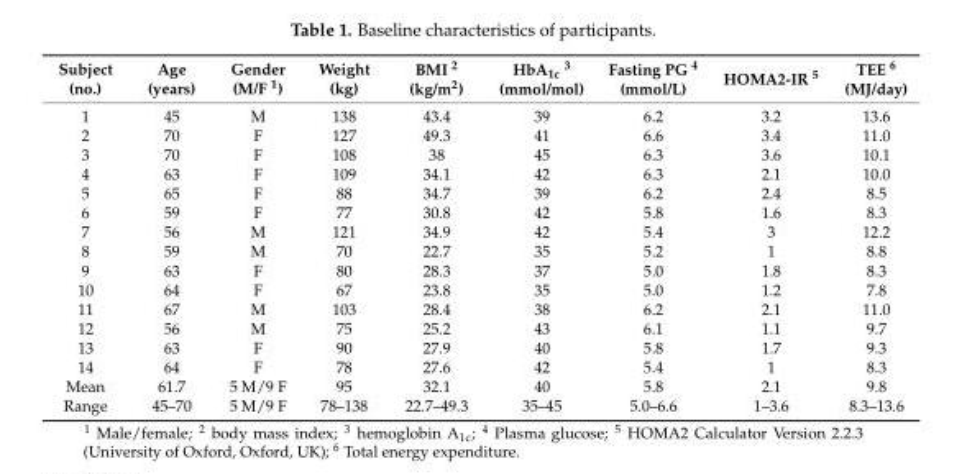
<table><thead><tr><td>Subject (no.)</td><td>Age (years)</td><td>Gender (M/F <sup>1</sup>)</td><td>Weight (kg)</td><td>BMI <sup>2</sup> (kg/m<sup>2</sup>)</td><td>HbA<sub>1c</sub> <sup>3</sup> (mmol/mol)</td><td>Fasting PG <sup>4</sup> (mmol/L)</td><td>HOMA2-IR <sup>5</sup></td><td>TEE <sup>6</sup> (MJ/day)</td></tr></thead><tbody><tr><td>1</td><td>45</td><td>M</td><td>138</td><td>43.4</td><td>39</td><td>6.2</td><td>3.2</td><td>13.6</td></tr><tr><td>2</td><td>70</td><td>F</td><td>127</td><td>49.3</td><td>41</td><td>6.6</td><td>3.4</td><td>11.0</td></tr><tr><td>3</td><td>70</td><td>F</td><td>108</td><td>38</td><td>45</td><td>6.3</td><td>3.6</td><td>10.1</td></tr><tr><td>4</td><td>63</td><td>F</td><td>109</td><td>34.1</td><td>42</td><td>6.3</td><td>2.1</td><td>10.0</td></tr><tr><td>5</td><td>65</td><td>F</td><td>88</td><td>34.7</td><td>39</td><td>6.2</td><td>2.4</td><td>8.5</td></tr><tr><td>6</td><td>59</td><td>F</td><td>77</td><td>30.8</td><td>42</td><td>5.8</td><td>1.6</td><td>8.3</td></tr><tr><td>7</td><td>56</td><td>M</td><td>121</td><td>34.9</td><td>42</td><td>5.4</td><td>3</td><td>12.2</td></tr><tr><td>8</td><td>59</td><td>M</td><td>70</td><td>22.7</td><td>35</td><td>5.2</td><td>1</td><td>8.8</td></tr><tr><td>9</td><td>63</td><td>F</td><td>80</td><td>28.3</td><td>37</td><td>5.0</td><td>1.8</td><td>8.3</td></tr><tr><td>10</td><td>64</td><td>F</td><td>67</td><td>23.8</td><td>35</td><td>5.0</td><td>1.2</td><td>7.8</td></tr><tr><td>11</td><td>67</td><td>M</td><td>103</td><td>28.4</td><td>38</td><td>6.2</td><td>2.1</td><td>11.0</td></tr><tr><td>12</td><td>56</td><td>M</td><td>75</td><td>25.2</td><td>43</td><td>6.1</td><td>1.1</td><td>9.7</td></tr><tr><td>13</td><td>63</td><td>F</td><td>90</td><td>27.9</td><td>40</td><td>5.8</td><td>1.7</td><td>9.3</td></tr><tr><td>14</td><td>64</td><td>F</td><td>78</td><td>27.6</td><td>42</td><td>5.4</td><td>1</td><td>8.3</td></tr><tr><td>Mean</td><td>61.7</td><td>5 M/9 F</td><td>95</td><td>32.1</td><td>40</td><td>5.8</td><td>2.1</td><td>9.8</td></tr><tr><td>Range</td><td>45–70</td><td>5 M/9 F</td><td>78–138</td><td>22.7–49.3</td><td>35–45</td><td>5.0–6.6</td><td>1–3.6</td><td>8.3–13.6</td></tr></tbody></table>